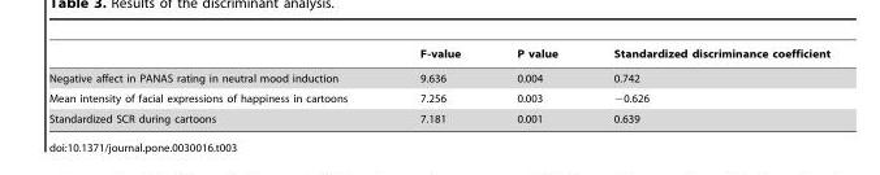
<table><thead><tr><td></td><td>F-value</td><td>P value</td><td>Standardized discriminance coefficient</td></tr></thead><tbody><tr><td>Negative affect in PANAS rating in neutral mood induction</td><td>9.636</td><td>0.004</td><td>0.742</td></tr><tr><td>Mean intensity of facial expressions of happiness in cartoons</td><td>7.256</td><td>0.003</td><td>−0.626</td></tr><tr><td>Standardized SCR during cartoons</td><td>7.181</td><td>0.001</td><td>0.639</td></tr></tbody></table>